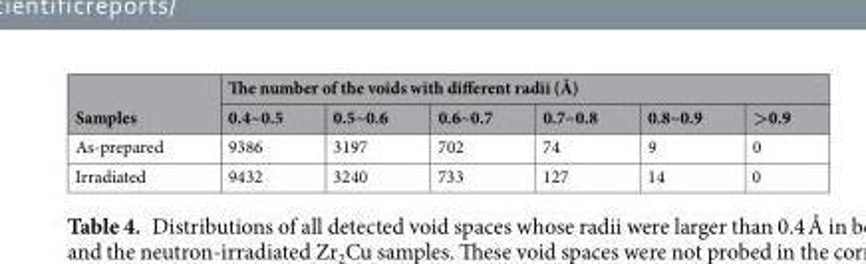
<table><thead><tr><td rowspan="2">Samples</td><td colspan="6">The number of the voids with different radii (Å)</td></tr><tr><td>0.4~0.5</td><td>0.5~0.6</td><td>0.6~0.7</td><td>0.7~0.8</td><td>0.8~0.9</td><td>&gt;0.9</td></tr></thead><tbody><tr><td>As-prepared</td><td>9386</td><td>3197</td><td>702</td><td>74</td><td>9</td><td>0</td></tr><tr><td>Irradiated</td><td>9432</td><td>3240</td><td>733</td><td>127</td><td>14</td><td>0</td></tr></tbody></table>